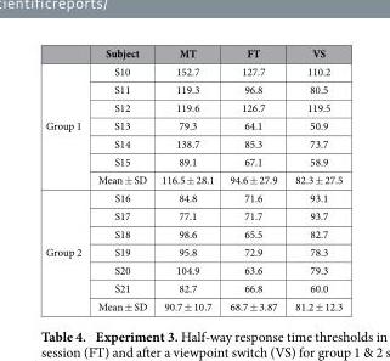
<table><thead><tr><td></td><td>Subject</td><td>MT</td><td>FT</td><td>VS</td></tr></thead><tbody><tr><td rowspan="7">Group 1</td><td>S10</td><td>152.7</td><td>127.7</td><td>110.2</td></tr><tr><td>S11</td><td>119.3</td><td>96.8</td><td>80.5</td></tr><tr><td>S12</td><td>119.6</td><td>126.7</td><td>119.5</td></tr><tr><td>S13</td><td>79.3</td><td>64.1</td><td>50.9</td></tr><tr><td>S14</td><td>138.7</td><td>85.3</td><td>73.7</td></tr><tr><td>S15</td><td>89.1</td><td>67.1</td><td>58.9</td></tr><tr><td>Mean ± SD</td><td>116.5 ± 28.1</td><td>94.6 ± 27.9</td><td>82.3 ± 27.5</td></tr><tr><td rowspan="7">Group 2</td><td>S16</td><td>84.8</td><td>71.6</td><td>93.1</td></tr><tr><td>S17</td><td>77.1</td><td>71.7</td><td>93.7</td></tr><tr><td>S18</td><td>98.6</td><td>65.5</td><td>82.7</td></tr><tr><td>S19</td><td>95.8</td><td>72.9</td><td>78.3</td></tr><tr><td>S20</td><td>104.9</td><td>63.6</td><td>79.3</td></tr><tr><td>S21</td><td>82.7</td><td>66.8</td><td>60.0</td></tr><tr><td>Mean ± SD</td><td>90.7 ± 10.7</td><td>68.7 ± 3.87</td><td>81.2 ± 12.3</td></tr></tbody></table>